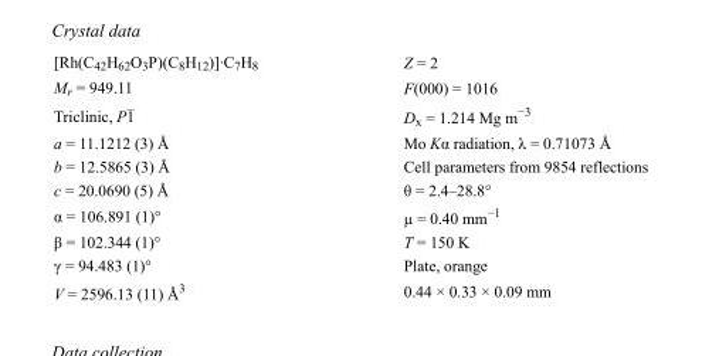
<table><tbody><tr><td>[Rh(C<sub>42</sub>H<sub>62</sub>O<sub>3</sub>P)(C<sub>8</sub>H<sub>12</sub>)]·C<sub>7</sub>H<sub>8</sub></td><td>Z = 2</td></tr><tr><td>M<sub>r</sub> = 949.11</td><td>F(000) = 1016</td></tr><tr><td>Triclinic, P1</td><td>D<sub>x</sub> = 1.214 Mg m<sup>−3</sup></td></tr><tr><td>a = 11.1212 (3) Å</td><td>Mo Kα radiation, λ = 0.71073 Å</td></tr><tr><td>b = 12.5865 (3) Å</td><td>Cell parameters from 9854 reflections</td></tr><tr><td>c = 20.0690 (5) Å</td><td>θ = 2.4–28.8°</td></tr><tr><td>α = 106.891 (1)°</td><td>µ = 0.40 mm<sup>−1</sup></td></tr><tr><td>β = 102.344 (1)°</td><td>T = 150 K</td></tr><tr><td>γ = 94.483 (1)°</td><td>Plate, orange</td></tr><tr><td>V = 2596.13 (11) Å<sup>3</sup></td><td>0.44 × 0.33 × 0.09 mm</td></tr></tbody></table>